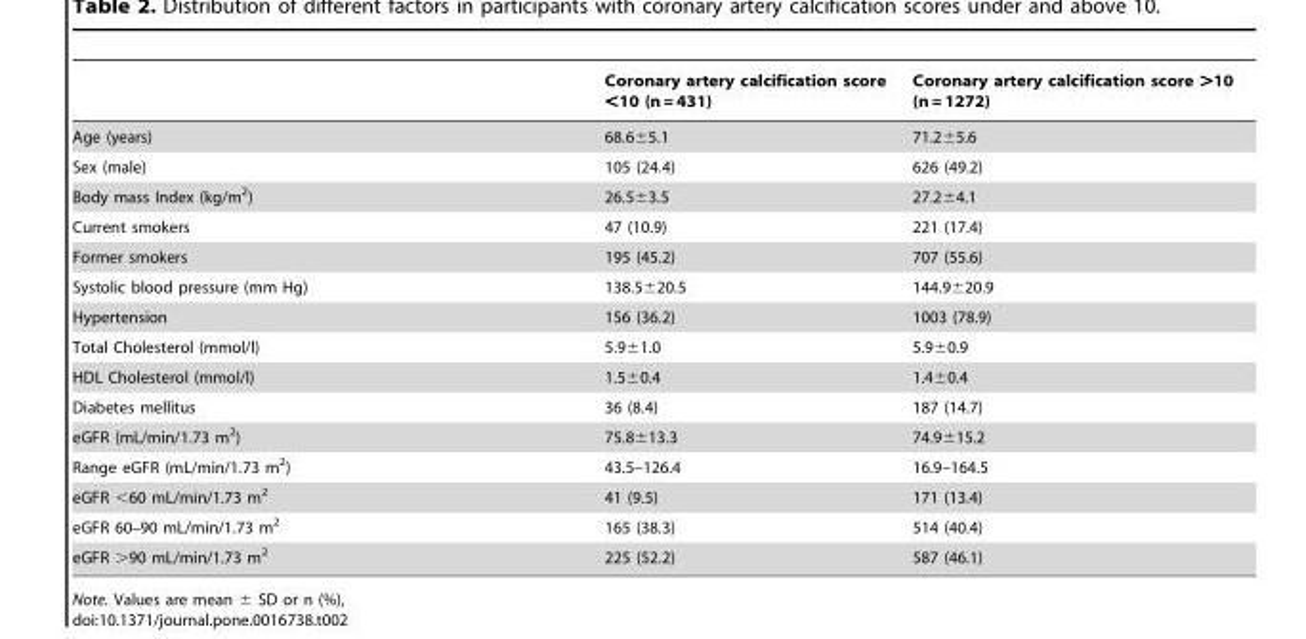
<table><thead><tr><td></td><td>Coronary artery calcification score &lt;10 (n = 431)</td><td>Coronary artery calcification score &gt;10 (n = 1272)</td></tr></thead><tbody><tr><td>Age (years)</td><td>68.6±5.1</td><td>71.2±5.6</td></tr><tr><td>Sex (male)</td><td>105 (24.4)</td><td>626 (49.2)</td></tr><tr><td>Body mass Index (kg/m<sup>2</sup>)</td><td>26.5±3.5</td><td>27.2±4.1</td></tr><tr><td>Current smokers</td><td>47 (10.9)</td><td>221 (17.4)</td></tr><tr><td>Former smokers</td><td>195 (45.2)</td><td>707 (55.6)</td></tr><tr><td>Systolic blood pressure (mm Hg)</td><td>138.5±20.5</td><td>144.9±20.9</td></tr><tr><td>Hypertension</td><td>156 (36.2)</td><td>1003 (78.9)</td></tr><tr><td>Total Cholesterol (mmol/l)</td><td>5.9±1.0</td><td>5.9±0.9</td></tr><tr><td>HDL Cholesterol (mmol/l)</td><td>1.5±0.4</td><td>1.4±0.4</td></tr><tr><td>Diabetes mellitus</td><td>36 (8.4)</td><td>187 (14.7)</td></tr><tr><td>eGFR (mL/min/1.73 m<sup>2</sup>)</td><td>75.8±13.3</td><td>74.9±15.2</td></tr><tr><td>Range eGFR (mL/min/1.73 m<sup>2</sup>)</td><td>43.5–126.4</td><td>16.9–164.5</td></tr><tr><td>eGFR &lt;60 mL/min/1.73 m<sup>2</sup></td><td>41 (9.5)</td><td>171 (13.4)</td></tr><tr><td>eGFR 60–90 mL/min/1.73 m<sup>2</sup></td><td>165 (38.3)</td><td>514 (40.4)</td></tr><tr><td>eGFR &gt;90 mL/min/1.73 m<sup>2</sup></td><td>225 (52.2)</td><td>587 (46.1)</td></tr></tbody></table>